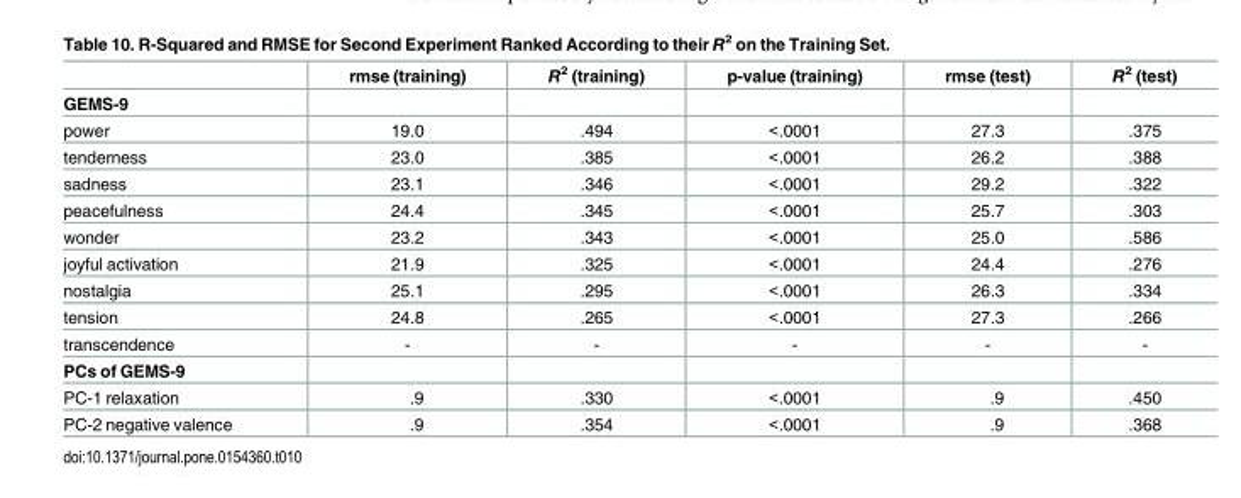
<table><thead><tr><td></td><td>rmse (training)</td><td>R<sup>2</sup> (training)</td><td>p-value (training)</td><td>rmse (test)</td><td>R<sup>2</sup> (test)</td></tr></thead><tbody><tr><td colspan="6">GEMS-9</td></tr><tr><td>power</td><td>19.0</td><td>.494</td><td>&lt;.0001</td><td>27.3</td><td>.375</td></tr><tr><td>tenderness</td><td>23.0</td><td>.385</td><td>&lt;.0001</td><td>26.2</td><td>.388</td></tr><tr><td>sadness</td><td>23.1</td><td>.346</td><td>&lt;.0001</td><td>29.2</td><td>.322</td></tr><tr><td>peacefulness</td><td>24.4</td><td>.345</td><td>&lt;.0001</td><td>25.7</td><td>.303</td></tr><tr><td>wonder</td><td>23.2</td><td>.343</td><td>&lt;.0001</td><td>25.0</td><td>.586</td></tr><tr><td>joyful activation</td><td>21.9</td><td>.325</td><td>&lt;.0001</td><td>24.4</td><td>.276</td></tr><tr><td>nostalgia</td><td>25.1</td><td>.295</td><td>&lt;.0001</td><td>26.3</td><td>.334</td></tr><tr><td>tension</td><td>24.8</td><td>.265</td><td>&lt;.0001</td><td>27.3</td><td>.266</td></tr><tr><td>transcendence</td><td>-</td><td>-</td><td>-</td><td>-</td><td>-</td></tr><tr><td colspan="6">PCs of GEMS-9</td></tr><tr><td>PC-1 relaxation</td><td>.9</td><td>.330</td><td>&lt;.0001</td><td>.9</td><td>.450</td></tr><tr><td>PC-2 negative valence</td><td>.9</td><td>.354</td><td>&lt;.0001</td><td>.9</td><td>.368</td></tr></tbody></table>